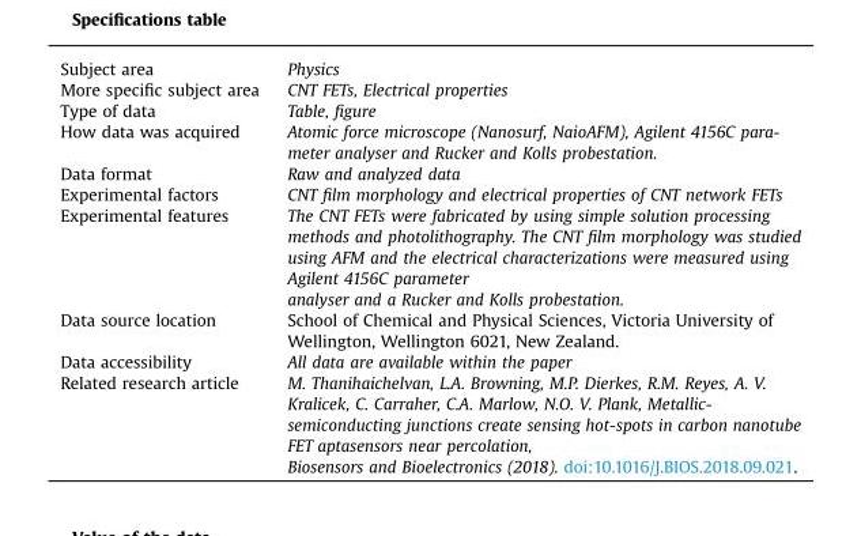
<table><tbody><tr><td>Subject area</td><td>Physics</td></tr><tr><td>More specific subject area</td><td>CNT FETs, Electrical properties</td></tr><tr><td>Type of data</td><td>Table, figure</td></tr><tr><td>How data was acquired</td><td>Atomic force microscope (Nanosurf, NaioAFM), Agilent 4156C para- meter analyser and Rucker and Kolls probestation.</td></tr><tr><td>Data format</td><td>Raw and analyzed data</td></tr><tr><td>Experimental factors</td><td>CNT film morphology and electrical properties of CNT network FETs</td></tr><tr><td>Experimental features</td><td>The CNT FETs were fabricated by using simple solution processing methods and photolithography. The CNT film morphology was studied using AFM and the electrical characterizations were measured using Agilent 4156C parameter analyser and a Rucker and Kolls probestation.</td></tr><tr><td>Data source location</td><td>School of Chemical and Physical Sciences, Victoria University of Wellington, Wellington 6021, New Zealand.</td></tr><tr><td>Data accessibility</td><td>All data are available within the paper</td></tr><tr><td>Related research article</td><td>M. Thanihaichelvan, L.A. Browning, M.P. Dierkes, R.M. Reyes, A. V. Kralicek, C. Carraher, C.A. Marlow, N.O. V. Plank, Metallic- semiconducting junctions create sensing hot-spots in carbon nanotube FET aptasensors near percolation, Biosensors and Bioelectronics (2018). doi:10.1016/J.BIOS.2018.09.021.</td></tr></tbody></table>